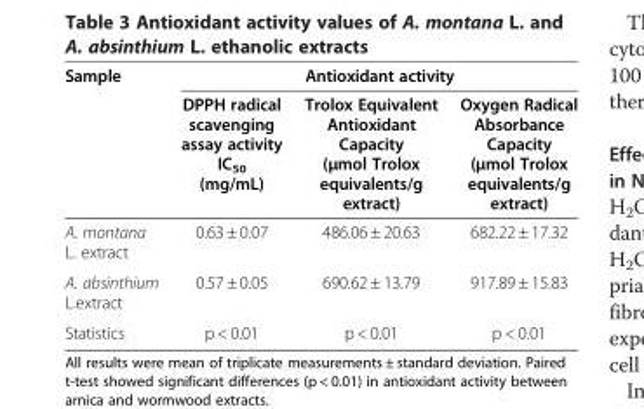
<table><thead><tr><td rowspan="2">Sample</td><td colspan="3">Antioxidant activity</td></tr><tr><td>DPPH radical scavenging assay activity IC<sub>50</sub> (mg/mL)</td><td>Trolox Equivalent Antioxidant Capacity (μmol Trolox equivalents/g extract)</td><td>Oxygen Radical Absorbance Capacity (μmol Trolox equivalents/g extract)</td></tr></thead><tbody><tr><td>A. montana L. extract</td><td>0.63 ± 0.07</td><td>486.06 ± 20.63</td><td>682.22 ± 17.32</td></tr><tr><td>A. absinthium L.extract</td><td>0.57 ± 0.05</td><td>690.62 ± 13.79</td><td>917.89 ± 15.83</td></tr><tr><td>Statistics</td><td>p &lt; 0.01</td><td>p &lt; 0.01</td><td>p &lt; 0.01</td></tr></tbody></table>